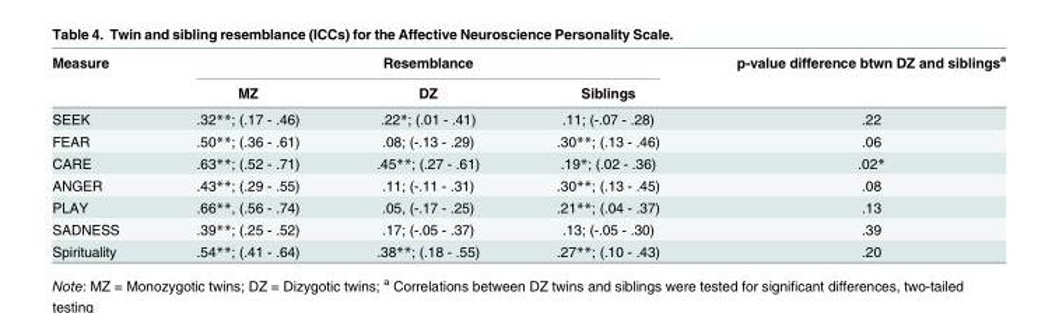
<table><thead><tr><td rowspan="2">Measure</td><td colspan="3">Resemblance</td><td rowspan="2">p-value difference btwn DZ and siblings<sup>a</sup></td></tr><tr><td>MZ</td><td>DZ</td><td>Siblings</td></tr></thead><tbody><tr><td>SEEK</td><td>.32**; (.17 - .46)</td><td>.22*; (.01 - .41)</td><td>.11; (-.07 - .28)</td><td>.22</td></tr><tr><td>FEAR</td><td>.50**; (.36 - .61)</td><td>.08; (-.13 - .29)</td><td>.30**; (.13 - .46)</td><td>.06</td></tr><tr><td>CARE</td><td>.63**; (.52 - .71)</td><td>.45**; (.27 - .61)</td><td>.19*; (.02 - .36)</td><td>.02*</td></tr><tr><td>ANGER</td><td>.43**; (.29 - .55)</td><td>.11; (-.11 - .31)</td><td>.30**; (.13 - .45)</td><td>.08</td></tr><tr><td>PLAY</td><td>.66**, (.56 - .74)</td><td>.05, (-.17 - .25)</td><td>.21**; (.04 - .37)</td><td>.13</td></tr><tr><td>SADNESS</td><td>.39**; (.25 - .52)</td><td>.17; (-.05 - .37)</td><td>.13; (-.05 - .30)</td><td>.39</td></tr><tr><td>Spirituality</td><td>.54**; (.41 - .64)</td><td>.38**; (.18 - .55)</td><td>.27**; (.10 - .43)</td><td>.20</td></tr></tbody></table>